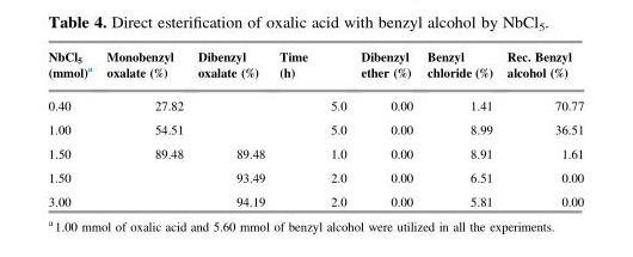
<table><thead><tr><td>NbCl<sub>5</sub> (mmol)<sup>a</sup></td><td>Monobenzyl oxalate (%)</td><td>Dibenzyl oxalate (%)</td><td>Time (h)</td><td>Dibenzyl ether (%)</td><td>Benzyl chloride (%)</td><td>Rec. Benzyl alcohol (%)</td></tr></thead><tbody><tr><td>0.40</td><td>27.82</td><td></td><td>5.0</td><td>0.00</td><td>1.41</td><td>70.77</td></tr><tr><td>1.00</td><td>54.51</td><td></td><td>5.0</td><td>0.00</td><td>8.99</td><td>36.51</td></tr><tr><td>1.50</td><td>89.48</td><td>89.48</td><td>1.0</td><td>0.00</td><td>8.91</td><td>1.61</td></tr><tr><td>1.50</td><td></td><td>93.49</td><td>2.0</td><td>0.00</td><td>6.51</td><td>0.00</td></tr><tr><td>3.00</td><td></td><td>94.19</td><td>2.0</td><td>0.00</td><td>5.81</td><td>0.00</td></tr></tbody></table>